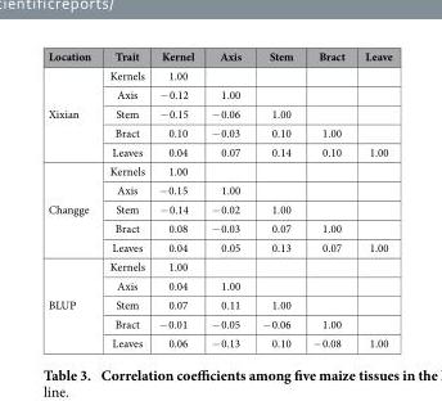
<table><thead><tr><td>Location</td><td>Trait</td><td>Kernel</td><td>Axis</td><td>Stem</td><td>Bract</td><td>Leave</td></tr></thead><tbody><tr><td rowspan="5">Xixian</td><td>Kernels</td><td>1.00</td><td></td><td></td><td></td><td></td></tr><tr><td>Axis</td><td>− 0.12</td><td>1.00</td><td></td><td></td><td></td></tr><tr><td>Stem</td><td>− 0.15</td><td>− 0.06</td><td>1.00</td><td></td><td></td></tr><tr><td>Bract</td><td>0.10</td><td>− 0.03</td><td>0.10</td><td>1.00</td><td></td></tr><tr><td>Leaves</td><td>0.04</td><td>0.07</td><td>0.14</td><td>0.10</td><td>1.00</td></tr><tr><td rowspan="5">Changge</td><td>Kernels</td><td>1.00</td><td></td><td></td><td></td><td></td></tr><tr><td>Axis</td><td>− 0.15</td><td>1.00</td><td></td><td></td><td></td></tr><tr><td>Stem</td><td>− 0.14</td><td>− 0.02</td><td>1.00</td><td></td><td></td></tr><tr><td>Bract</td><td>0.08</td><td>− 0.03</td><td>0.07</td><td>1.00</td><td></td></tr><tr><td>Leaves</td><td>0.04</td><td>0.05</td><td>0.13</td><td>0.07</td><td>1.00</td></tr><tr><td rowspan="5">BLUP</td><td>Kernels</td><td>1.00</td><td></td><td></td><td></td><td></td></tr><tr><td>Axis</td><td>0.04</td><td>1.00</td><td></td><td></td><td></td></tr><tr><td>Stem</td><td>0.07</td><td>0.11</td><td>1.00</td><td></td><td></td></tr><tr><td>Bract</td><td>− 0.01</td><td>− 0.05</td><td>− 0.06</td><td>1.00</td><td></td></tr><tr><td>Leaves</td><td>0.06</td><td>− 0.13</td><td>0.10</td><td>− 0.08</td><td>1.00</td></tr></tbody></table>